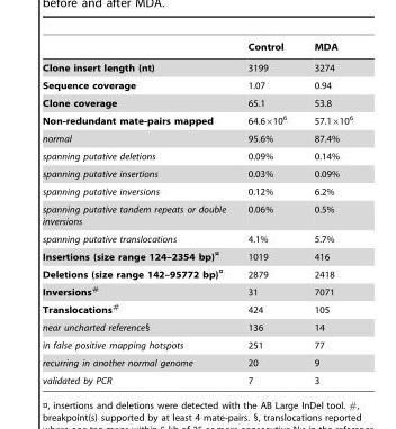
<table><thead><tr><td></td><td>Control</td><td>MDA</td></tr></thead><tbody><tr><td>Clone insert length (nt)</td><td>3199</td><td>3274</td></tr><tr><td>Sequence coverage</td><td>1.07</td><td>0.94</td></tr><tr><td>Clone coverage</td><td>65.1</td><td>53.8</td></tr><tr><td>Non-redundant mate-pairs mapped</td><td>64.6×10<sup>6</sup></td><td>57.1×10<sup>6</sup></td></tr><tr><td>normal</td><td>95.6%</td><td>87.4%</td></tr><tr><td>spanning putative deletions</td><td>0.09%</td><td>0.14%</td></tr><tr><td>spanning putative insertions</td><td>0.03%</td><td>0.09%</td></tr><tr><td>spanning putative inversions</td><td>0.12%</td><td>6.2%</td></tr><tr><td>spanning putative tandem repeats or double inversions</td><td>0.06%</td><td>0.5%</td></tr><tr><td>spanning putative translocations</td><td>4.1%</td><td>5.7%</td></tr><tr><td>Insertions (size range 124–2354 bp)<sup>¤</sup></td><td>1019</td><td>416</td></tr><tr><td>Deletions (size range 142–95772 bp)<sup>¤</sup></td><td>2879</td><td>2418</td></tr><tr><td>Inversions<sup>#</sup></td><td>31</td><td>7071</td></tr><tr><td>Translocations<sup>#</sup></td><td>424</td><td>105</td></tr><tr><td>near uncharted reference§</td><td>136</td><td>14</td></tr><tr><td>in false positive mapping hotspots</td><td>251</td><td>77</td></tr><tr><td>recurring in another normal genome</td><td>20</td><td>9</td></tr><tr><td>validated by PCR</td><td>7</td><td>3</td></tr></tbody></table>